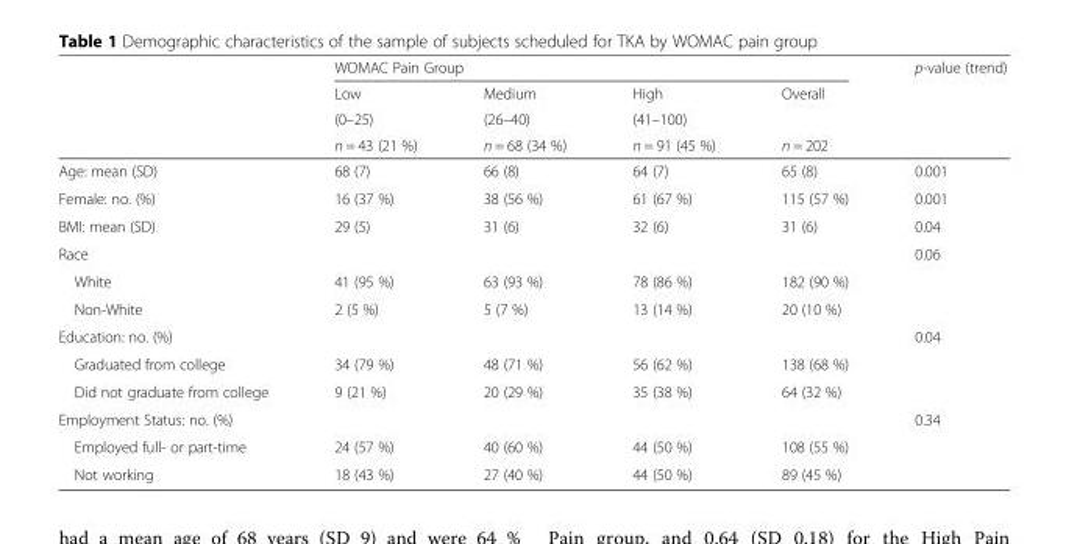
<table><thead><tr><td rowspan="4"></td><td colspan="4">WOMAC Pain Group</td><td rowspan="4">p-value (trend)</td></tr><tr><td rowspan="3">Low (0–25) n = 43 (21 %)</td><td rowspan="3">Medium (26–40) n = 68 (34 %)</td><td rowspan="3">High (41–100) n = 91 (45 %)</td><td rowspan="3">Overall n = 202</td></tr><tr></tr><tr></tr></thead><tbody><tr><td>Age: mean (SD)</td><td>68 (7)</td><td>66 (8)</td><td>64 (7)</td><td>65 (8)</td><td>0.001</td></tr><tr><td>Female: no. (%)</td><td>16 (37 %)</td><td>38 (56 %)</td><td>61 (67 %)</td><td>115 (57 %)</td><td>0.001</td></tr><tr><td>BMI: mean (SD)</td><td>29 (5)</td><td>31 (6)</td><td>32 (6)</td><td>31 (6)</td><td>0.04</td></tr><tr><td>Race</td><td></td><td></td><td></td><td></td><td>0.06</td></tr><tr><td>White</td><td>41 (95 %)</td><td>63 (93 %)</td><td>78 (86 %)</td><td>182 (90 %)</td><td></td></tr><tr><td>Non-White</td><td>2 (5 %)</td><td>5 (7 %)</td><td>13 (14 %)</td><td>20 (10 %)</td><td></td></tr><tr><td>Education: no. (%)</td><td></td><td></td><td></td><td></td><td>0.04</td></tr><tr><td>Graduated from college</td><td>34 (79 %)</td><td>48 (71 %)</td><td>56 (62 %)</td><td>138 (68 %)</td><td></td></tr><tr><td>Did not graduate from college</td><td>9 (21 %)</td><td>20 (29 %)</td><td>35 (38 %)</td><td>64 (32 %)</td><td></td></tr><tr><td>Employment Status: no. (%)</td><td></td><td></td><td></td><td></td><td>0.34</td></tr><tr><td>Employed full- or part-time</td><td>24 (57 %)</td><td>40 (60 %)</td><td>44 (50 %)</td><td>108 (55 %)</td><td></td></tr><tr><td>Not working</td><td>18 (43 %)</td><td>27 (40 %)</td><td>44 (50 %)</td><td>89 (45 %)</td><td></td></tr></tbody></table>